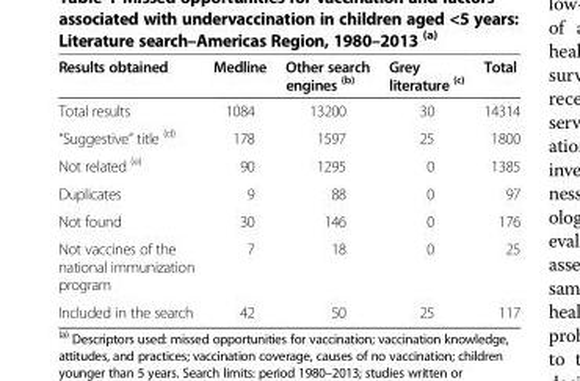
<table><thead><tr><td>Results obtained</td><td>Medline</td><td>Other search engines <sup>(b)</sup></td><td>Grey literature <sup>(c)</sup></td><td>Total</td></tr></thead><tbody><tr><td>Total results</td><td>1084</td><td>13200</td><td>30</td><td>14314</td></tr><tr><td>“Suggestive” title <sup>(d)</sup></td><td>178</td><td>1597</td><td>25</td><td>1800</td></tr><tr><td>Not related <sup>(e)</sup></td><td>90</td><td>1295</td><td>0</td><td>1385</td></tr><tr><td>Duplicates</td><td>9</td><td>88</td><td>0</td><td>97</td></tr><tr><td>Not found</td><td>30</td><td>146</td><td>0</td><td>176</td></tr><tr><td>Not vaccines of the national immunization program</td><td>7</td><td>18</td><td>0</td><td>25</td></tr><tr><td>Included in the search</td><td>42</td><td>50</td><td>25</td><td>117</td></tr></tbody></table>